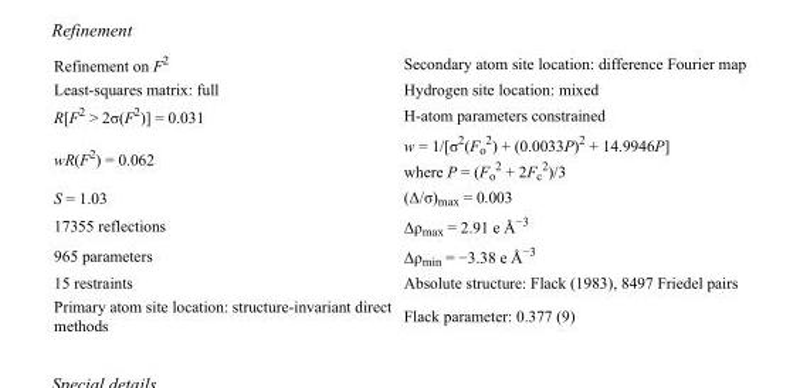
<table><tbody><tr><td>Refinement on F<sup>2</sup></td><td>Secondary atom site location: difference Fourier map</td></tr><tr><td>Least-squares matrix: full</td><td>Hydrogen site location: mixed</td></tr><tr><td>R[F<sup>2</sup> &gt; 2σ(F<sup>2</sup>)] = 0.031</td><td>H-atom parameters constrained</td></tr><tr><td>wR(F<sup>2</sup>) = 0.062</td><td>w = 1/[σ<sup>2</sup>(F<sub>o</sub> <sup>2</sup>) + (0.0033P)<sup>2</sup> + 14.9946P] where P = (F<sub>o</sub> <sup>2</sup> + 2F<sub>c</sub> <sup>2</sup>)/3</td></tr><tr><td>S = 1.03</td><td>(Δ/σ)<sub>max</sub> = 0.003</td></tr><tr><td>17355 reflections</td><td>Δρ<sub>max</sub> = 2.91 e Å<sup>−3</sup></td></tr><tr><td>965 parameters</td><td>Δρ<sub>min</sub> = −3.38 e Å<sup>−3</sup></td></tr><tr><td>15 restraints</td><td>Absolute structure: Flack (1983), 8497 Friedel pairs</td></tr><tr><td>Primary atom site location: structure-invariant direct methods</td><td>Flack parameter: 0.377 (9)</td></tr></tbody></table>